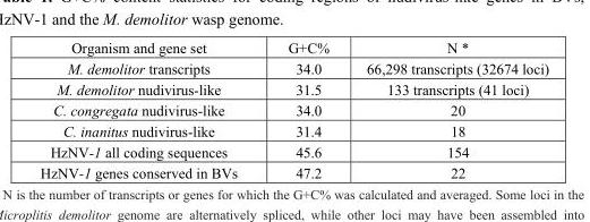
<table><tbody><tr><td>Organism and gene set</td><td>G+C%</td><td>N *</td></tr><tr><td>M. demolitor transcripts</td><td>34.0</td><td>66,298 transcripts (32674 loci)</td></tr><tr><td>M. demolitor nudivirus-like</td><td>31.5</td><td>133 transcripts (41 loci)</td></tr><tr><td>C. congregata nudivirus-like</td><td>34.0</td><td>20</td></tr><tr><td>C. inanitus nudivirus-like</td><td>31.4</td><td>18</td></tr><tr><td>HzNV-1 all coding sequences</td><td>45.6</td><td>154</td></tr><tr><td>HzNV-1 genes conserved in BVs</td><td>47.2</td><td>22</td></tr></tbody></table>